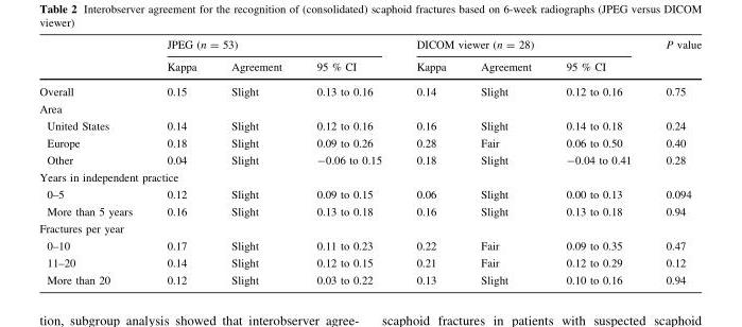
<table><thead><tr><td rowspan="2"></td><td colspan="3">JPEG (n = 53)</td><td colspan="3">DICOM viewer (n = 28)</td><td rowspan="2">P value</td></tr><tr><td>Kappa</td><td>Agreement</td><td>95 % CI</td><td>Kappa</td><td>Agreement</td><td>95 % CI</td></tr></thead><tbody><tr><td>Overall</td><td>0.15</td><td>Slight</td><td>0.13 to 0.16</td><td>0.14</td><td>Slight</td><td>0.12 to 0.16</td><td>0.75</td></tr><tr><td colspan="8">Area</td></tr><tr><td>United States</td><td>0.14</td><td>Slight</td><td>0.12 to 0.16</td><td>0.16</td><td>Slight</td><td>0.14 to 0.18</td><td>0.24</td></tr><tr><td>Europe</td><td>0.18</td><td>Slight</td><td>0.09 to 0.26</td><td>0.28</td><td>Fair</td><td>0.06 to 0.50</td><td>0.40</td></tr><tr><td>Other</td><td>0.04</td><td>Slight</td><td>-0.06 to 0.15</td><td>0.18</td><td>Slight</td><td>-0.04 to 0.41</td><td>0.28</td></tr><tr><td colspan="8">Years in independent practice</td></tr><tr><td>0–5</td><td>0.12</td><td>Slight</td><td>0.09 to 0.15</td><td>0.06</td><td>Slight</td><td>0.00 to 0.13</td><td>0.094</td></tr><tr><td>More than 5 years</td><td>0.16</td><td>Slight</td><td>0.13 to 0.18</td><td>0.16</td><td>Slight</td><td>0.13 to 0.18</td><td>0.94</td></tr><tr><td colspan="8">Fractures per year</td></tr><tr><td>0–10</td><td>0.17</td><td>Slight</td><td>0.11 to 0.23</td><td>0.22</td><td>Fair</td><td>0.09 to 0.35</td><td>0.47</td></tr><tr><td>11–20</td><td>0.14</td><td>Slight</td><td>0.12 to 0.15</td><td>0.21</td><td>Fair</td><td>0.12 to 0.29</td><td>0.12</td></tr><tr><td>More than 20</td><td>0.12</td><td>Slight</td><td>0.03 to 0.22</td><td>0.13</td><td>Slight</td><td>0.10 to 0.16</td><td>0.94</td></tr></tbody></table>